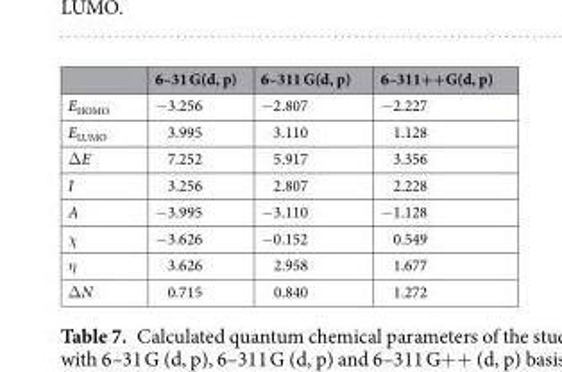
<table><thead><tr><td></td><td>6–31 G(d, p)</td><td>6–311 G(d, p)</td><td>6–311++G(d, p)</td></tr></thead><tbody><tr><td>E<sub>HOMO</sub></td><td>−3.256</td><td>−2.807</td><td>−2.227</td></tr><tr><td>E<sub>LUMO</sub></td><td>3.995</td><td>3.110</td><td>1.128</td></tr><tr><td>ΔE</td><td>7.252</td><td>5.917</td><td>3.356</td></tr><tr><td>I</td><td>3.256</td><td>2.807</td><td>2.228</td></tr><tr><td>A</td><td>−3.995</td><td>−3.110</td><td>−1.128</td></tr><tr><td>χ</td><td>−3.626</td><td>−0.152</td><td>0.549</td></tr><tr><td>η</td><td>3.626</td><td>2.958</td><td>1.677</td></tr><tr><td>ΔN</td><td>0.715</td><td>0.840</td><td>1.272</td></tr></tbody></table>